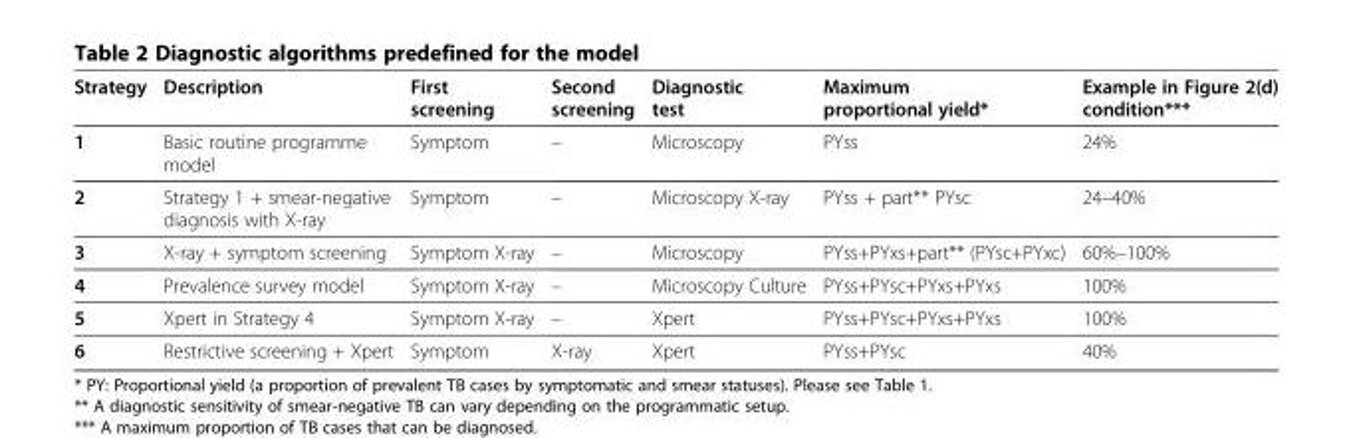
<table><thead><tr><td>Strategy</td><td>Description</td><td>First screening</td><td>Second screening</td><td>Diagnostic test</td><td>Maximum proportional yield*</td><td>Example in Figure 2(d) condition***</td></tr></thead><tbody><tr><td>1</td><td>Basic routine programme model</td><td>Symptom</td><td>–</td><td>Microscopy</td><td>PYss</td><td>24%</td></tr><tr><td>2</td><td>Strategy 1 + smear-negative diagnosis with X-ray</td><td>Symptom</td><td>–</td><td>Microscopy X-ray</td><td>PYss + part** PYsc</td><td>24–40%</td></tr><tr><td>3</td><td>X-ray + symptom screening</td><td>Symptom X-ray</td><td>–</td><td>Microscopy</td><td>PYss+PYxs+part** (PYsc+PYxc)</td><td>60%–100%</td></tr><tr><td>4</td><td>Prevalence survey model</td><td>Symptom X-ray</td><td>–</td><td>Microscopy Culture</td><td>PYss+PYsc+PYxs+PYxs</td><td>100%</td></tr><tr><td>5</td><td>Xpert in Strategy 4</td><td>Symptom X-ray</td><td>–</td><td>Xpert</td><td>PYss+PYsc+PYxs+PYxs</td><td>100%</td></tr><tr><td>6</td><td>Restrictive screening + Xpert</td><td>Symptom</td><td>X-ray</td><td>Xpert</td><td>PYss+PYsc</td><td>40%</td></tr></tbody></table>